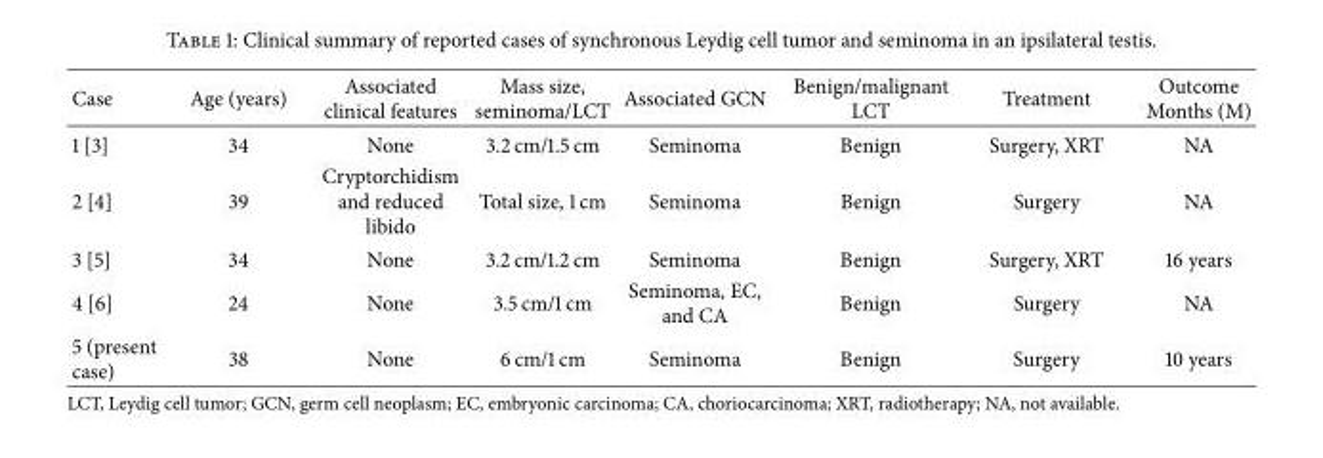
<table><thead><tr><td>Case</td><td>Age (years)</td><td>Associated clinical features</td><td>Mass size, seminoma/LCT</td><td>Associated GCN</td><td>Benign/malignant LCT</td><td>Treatment</td><td>Outcome Months (M)</td></tr></thead><tbody><tr><td>1 [3]</td><td>34</td><td>None</td><td>3.2 cm/1.5 cm</td><td>Seminoma</td><td>Benign</td><td>Surgery, XRT</td><td>NA</td></tr><tr><td>2 [4]</td><td>39</td><td>Cryptorchidism and reduced libido</td><td>Total size, 1 cm</td><td>Seminoma</td><td>Benign</td><td>Surgery</td><td>NA</td></tr><tr><td>3 [5]</td><td>34</td><td>None</td><td>3.2 cm/1.2 cm</td><td>Seminoma</td><td>Benign</td><td>Surgery, XRT</td><td>16 years</td></tr><tr><td>4 [6]</td><td>24</td><td>None</td><td>3.5 cm/1 cm</td><td>Seminoma, EC, and CA</td><td>Benign</td><td>Surgery</td><td>NA</td></tr><tr><td>5 (present case)</td><td>38</td><td>None</td><td>6 cm/1 cm</td><td>Seminoma</td><td>Benign</td><td>Surgery</td><td>10 years</td></tr></tbody></table>